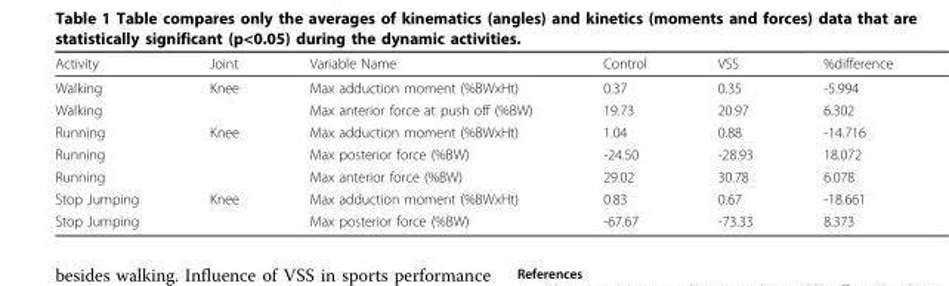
<table><thead><tr><td>Activity</td><td>Joint</td><td>Variable Name</td><td>Control</td><td>VSS</td><td>%difference</td></tr></thead><tbody><tr><td>Walking</td><td>Knee</td><td>Max adduction moment (%BWxHt)</td><td>0.37</td><td>0.35</td><td>-5.994</td></tr><tr><td>Walking</td><td></td><td>Max anterior force at push off (%BW)</td><td>19.73</td><td>20.97</td><td>6.302</td></tr><tr><td>Running</td><td>Knee</td><td>Max adduction moment (%BWxHt)</td><td>1.04</td><td>0.88</td><td>-14.716</td></tr><tr><td>Running</td><td></td><td>Max posterior force (%BW)</td><td>-24.50</td><td>-28.93</td><td>18.072</td></tr><tr><td>Running</td><td></td><td>Max anterior force (%BW)</td><td>29.02</td><td>30.78</td><td>6.078</td></tr><tr><td>Stop Jumping</td><td>Knee</td><td>Max adduction moment (%BWxHt)</td><td>0.83</td><td>0.67</td><td>-18.661</td></tr><tr><td>Stop Jumping</td><td></td><td>Max posterior force (%BW)</td><td>-67.67</td><td>-73.33</td><td>8.373</td></tr></tbody></table>